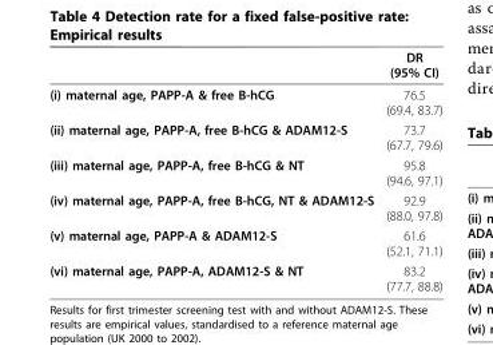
<table><thead><tr><td></td><td>DR (95% CI)</td></tr></thead><tbody><tr><td>(i) maternal age, PAPP-A &amp; free B-hCG</td><td>76.5 (69.4, 83.7)</td></tr><tr><td>(ii) maternal age, PAPP-A, free B-hCG &amp; ADAM12-S</td><td>73.7 (67.7, 79.6)</td></tr><tr><td>(iii) maternal age, PAPP-A, free B-hCG &amp; NT</td><td>95.8 (94.6, 97.1)</td></tr><tr><td>(iv) maternal age, PAPP-A, free B-hCG, NT &amp; ADAM12-S</td><td>92.9 (88.0, 97.8)</td></tr><tr><td>(v) maternal age, PAPP-A &amp; ADAM12-S</td><td>61.6 (52.1, 71.1)</td></tr><tr><td>(vi) maternal age, PAPP-A, ADAM12-S &amp; NT</td><td>83.2 (77.7, 88.8)</td></tr></tbody></table>